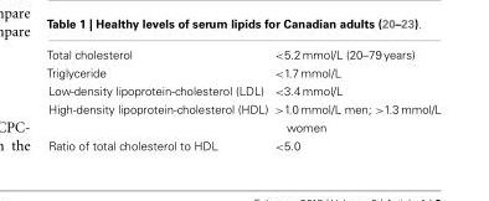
<table><tbody><tr><td>Total cholesterol</td><td>&lt;5.2 mmol/L (20–79 years)</td></tr><tr><td>Triglyceride</td><td>&lt;1.7 mmol/L</td></tr><tr><td>Low-density lipoprotein-cholesterol (LDL)</td><td>&lt;3.4 mmol/L</td></tr><tr><td>High-density lipoprotein-cholesterol (HDL)</td><td>&gt;1.0 mmol/L men; &gt;1.3 mmol/L women</td></tr><tr><td>Ratio of total cholesterol to HDL</td><td>&lt;5.0</td></tr></tbody></table>